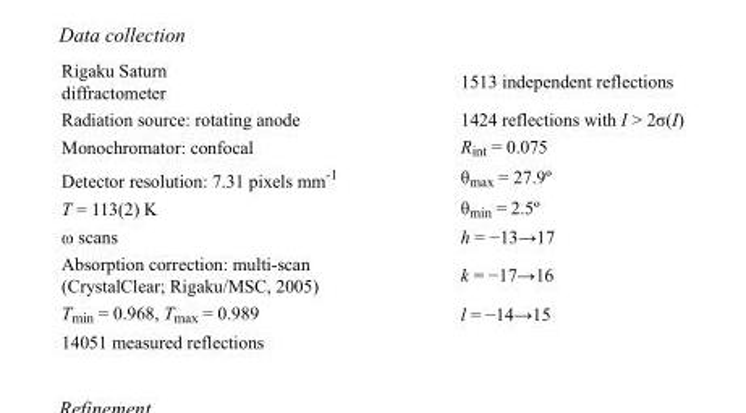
<table><tbody><tr><td>Rigaku Saturn diffractometer</td><td>1513 independent reflections</td></tr><tr><td>Radiation source: rotating anode</td><td>1424 reflections with I &gt; 2σ(I)</td></tr><tr><td>Monochromator: confocal</td><td>R<sub>int</sub> = 0.075</td></tr><tr><td>Detector resolution: 7.31 pixels mm<sup>-1</sup></td><td>θ<sub>max</sub> = 27.9º</td></tr><tr><td>T = 113(2) K</td><td>θ<sub>min</sub> = 2.5º</td></tr><tr><td>ω scans</td><td>h = −13→17</td></tr><tr><td>Absorption correction: multi-scan (CrystalClear; Rigaku/MSC, 2005)</td><td>k = −17→16</td></tr><tr><td>T<sub>min</sub> = 0.968, T<sub>max</sub> = 0.989</td><td>l = −14→15</td></tr><tr><td>14051 measured reflections</td><td></td></tr></tbody></table>